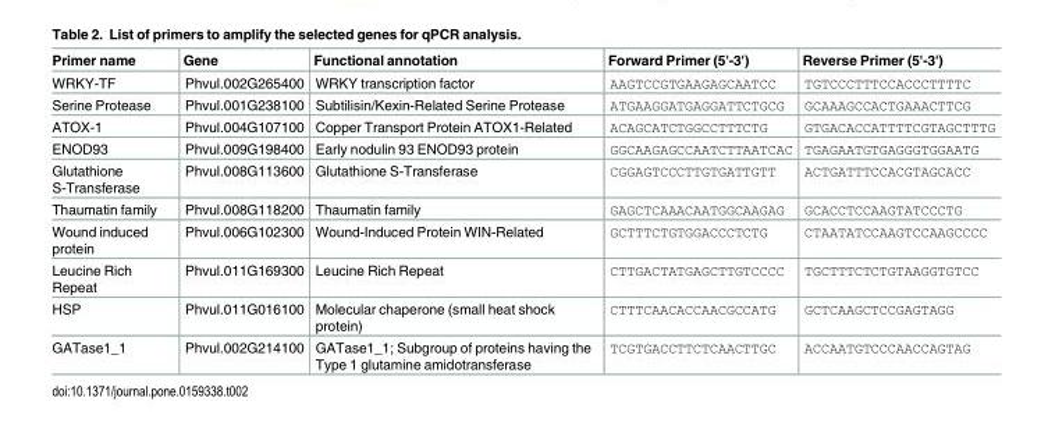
<table><thead><tr><td>Primer name</td><td>Gene</td><td>Functional annotation</td><td>Forward Primer (5&#x27;-3&#x27;)</td><td>Reverse Primer (5&#x27;-3&#x27;)</td></tr></thead><tbody><tr><td>WRKY-TF</td><td>Phvul.002G265400</td><td>WRKY transcription factor</td><td>AAGTCCGTGAAGAGCAATCC</td><td>TGTCCCTTTCCACCCTTTTC</td></tr><tr><td>Serine Protease</td><td>Phvul.001G238100</td><td>Subtilisin/Kexin-Related Serine Protease</td><td>ATGAAGGATGAGGATTCTGCG</td><td>GCAAAGCCACTGAAACTTCG</td></tr><tr><td>ATOX-1</td><td>Phvul.004G107100</td><td>Copper Transport Protein ATOX1-Related</td><td>ACAGCATCTGGCCTTTCTG</td><td>GTGACACCATTTTCGTAGCTTTG</td></tr><tr><td>ENOD93</td><td>Phvul.009G198400</td><td>Early nodulin 93 ENOD93 protein</td><td>GGCAAGAGCCAATCTTAATCAC</td><td>TGAGAATGTGAGGGTGGAATG</td></tr><tr><td>Glutathione S-Transferase</td><td>Phvul.008G113600</td><td>Glutathione S-Transferase</td><td>CGGAGTCCCTTGTGATTGTT</td><td>ACTGATTTCCACGTAGCACC</td></tr><tr><td>Thaumatin family</td><td>Phvul.008G118200</td><td>Thaumatin family</td><td>GAGCTCAAACAATGGCAAGAG</td><td>GCACCTCCAAGTATCCCTG</td></tr><tr><td>Wound induced protein</td><td>Phvul.006G102300</td><td>Wound-Induced Protein WIN-Related</td><td>GCTTTCTGTGGACCCTCTG</td><td>CTAATATCCAAGTCCAAGCCCC</td></tr><tr><td>Leucine Rich Repeat</td><td>Phvul.011G169300</td><td>Leucine Rich Repeat</td><td>CTTGACTATGAGCTTGTCCCC</td><td>TGCTTTCTCTGTAAGGTGTCC</td></tr><tr><td>HSP</td><td>Phvul.011G016100</td><td>Molecular chaperone (small heat shock protein)</td><td>CTTTCAACACCAACGCCATG</td><td>GCTCAAGCTCCGAGTAGG</td></tr><tr><td>GATase1_1</td><td>Phvul.002G214100</td><td>GATase1_1; Subgroup of proteins having the Type 1 glutamine amidotransferase</td><td>TCGTGACCTTCTCAACTTGC</td><td>ACCAATGTCCCAACCAGTAG</td></tr></tbody></table>